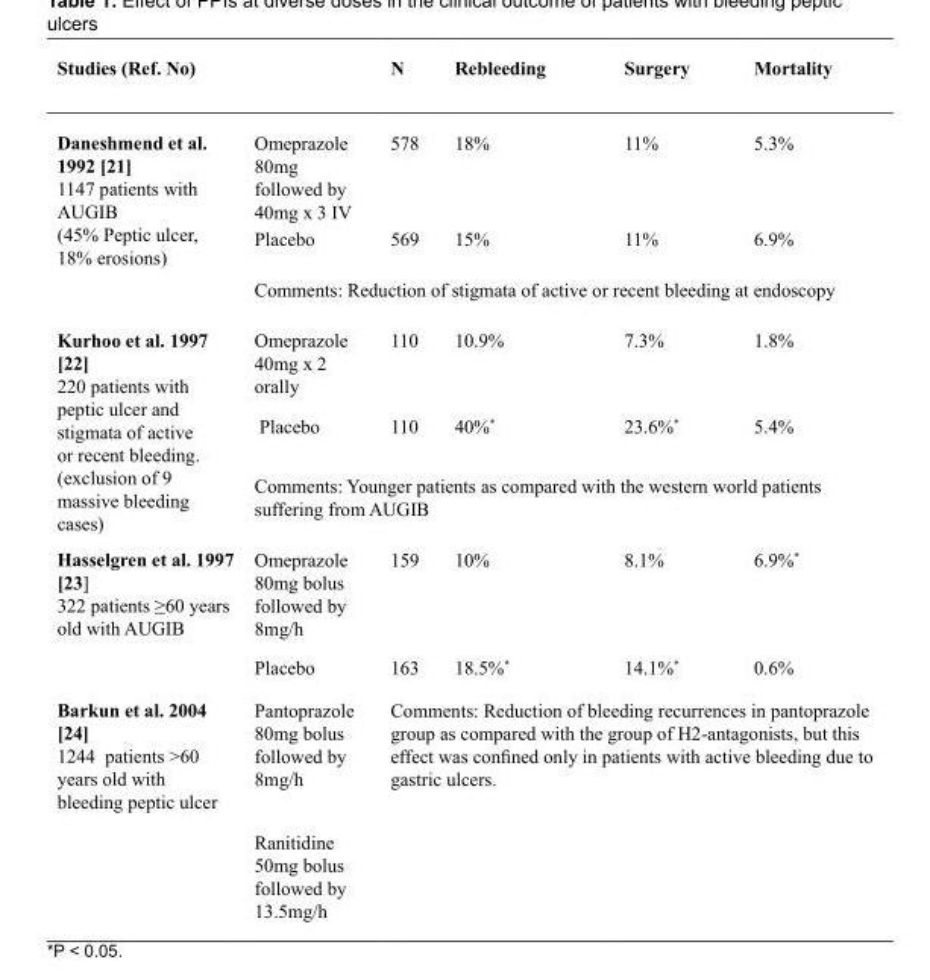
<table><thead><tr><td>Studies (Ref. No)</td><td></td><td>N</td><td>Rebleeding</td><td>Surgery</td><td>Mortality</td></tr></thead><tbody><tr><td rowspan="3">Daneshmend et al. 1992 [21] 1147 patients with AUGIB (45% Peptic ulcer, 18% erosions)</td><td>Omeprazole 80mg followed by 40mg x 3 IV</td><td>578</td><td>18%</td><td>11%</td><td>5.3%</td></tr><tr><td>Placebo</td><td>569</td><td>15%</td><td>11%</td><td>6.9%</td></tr><tr><td colspan="5">Comments: Reduction of stigmata of active or recent bleeding at endoscopy</td></tr><tr><td rowspan="3">Kurhoo et al. 1997 [22] 220 patients with peptic ulcer and stigmata of active or recent bleeding. (exclusion of 9 massive bleeding cases)</td><td>Omeprazole 40mg x 2 orally</td><td>110</td><td>10.9%</td><td>7.3%</td><td>1.8%</td></tr><tr><td>Placebo</td><td>110</td><td>40%*</td><td>23.6%*</td><td>5.4%</td></tr><tr><td colspan="5">Comments: Younger patients as compared with the western world patients suffering from AUGIB</td></tr><tr><td rowspan="2">Hasselgren et al. 1997 [23] 322 patients ≥60 years old with AUGIB</td><td>Omeprazole 80mg bolus followed by 8mg/h</td><td>159</td><td>10%</td><td>8.1%</td><td>6.9%*</td></tr><tr><td>Placebo</td><td>163</td><td>18.5%*</td><td>14.1%*</td><td>0.6%</td></tr><tr><td rowspan="2">Βarkun et al. 2004 [24] 1244 patients &gt;60 years old with bleeding peptic ulcer</td><td>Pantoprazole 80mg bolus followed by 8mg/h</td><td colspan="4">Comments: Reduction of bleeding recurrences in pantoprazole group as compared with the group of H2-antagonists, but this effect was confined only in patients with active bleeding due to gastric ulcers.</td></tr><tr><td>Ranitidine 50mg bolus followed by 13.5mg/h</td><td colspan="4"></td></tr></tbody></table>